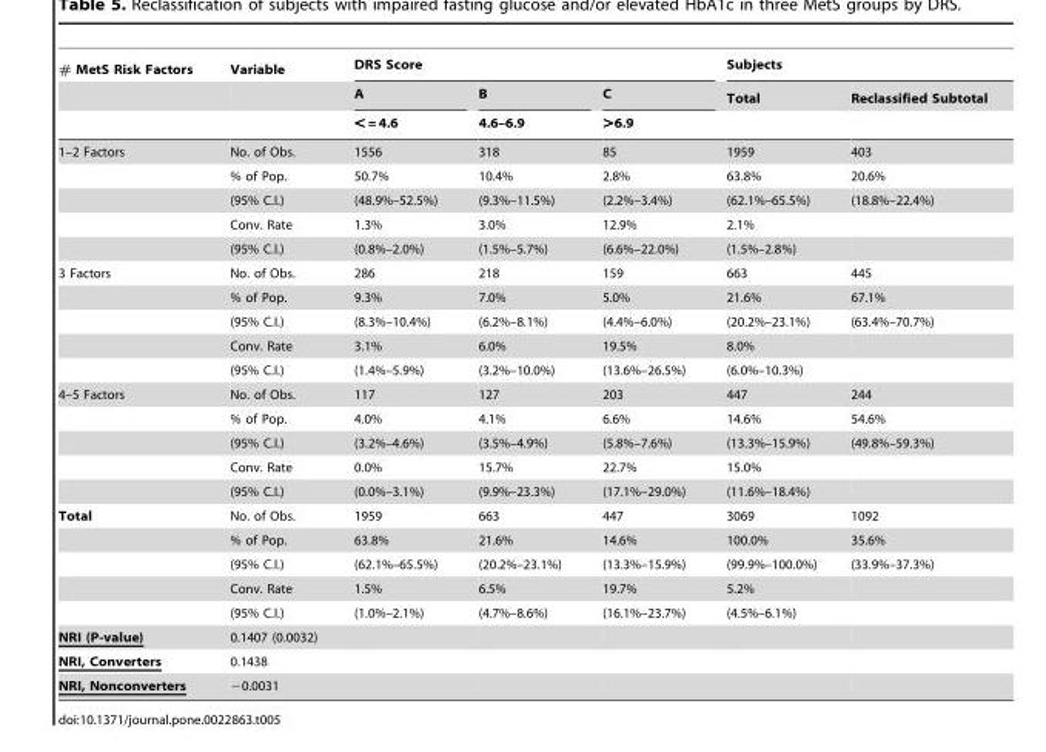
<table><thead><tr><td rowspan="3"># MetS Risk Factors</td><td rowspan="3">Variable</td><td colspan="3">DRS Score</td><td colspan="2">Subjects</td></tr><tr><td rowspan="2">A &lt; = 4.6</td><td rowspan="2">B 4.6–6.9</td><td rowspan="2">C &gt;6.9</td><td rowspan="2">Total</td><td rowspan="2">Reclassified Subtotal</td></tr><tr></tr></thead><tbody><tr><td rowspan="5">1–2 Factors</td><td>No. of Obs.</td><td>1556</td><td>318</td><td>85</td><td>1959</td><td>403</td></tr><tr><td>% of Pop.</td><td>50.7%</td><td>10.4%</td><td>2.8%</td><td>63.8%</td><td>20.6%</td></tr><tr><td>(95% C.I.)</td><td>(48.9%–52.5%)</td><td>(9.3%–11.5%)</td><td>(2.2%–3.4%)</td><td>(62.1%–65.5%)</td><td>(18.8%–22.4%)</td></tr><tr><td>Conv. Rate</td><td>1.3%</td><td>3.0%</td><td>12.9%</td><td>2.1%</td><td></td></tr><tr><td>(95% C.I.)</td><td>(0.8%–2.0%)</td><td>(1.5%–5.7%)</td><td>(6.6%–22.0%)</td><td>(1.5%–2.8%)</td><td></td></tr><tr><td rowspan="5">3 Factors</td><td>No. of Obs.</td><td>286</td><td>218</td><td>159</td><td>663</td><td>445</td></tr><tr><td>% of Pop.</td><td>9.3%</td><td>7.0%</td><td>5.0%</td><td>21.6%</td><td>67.1%</td></tr><tr><td>(95% C.I.)</td><td>(8.3%–10.4%)</td><td>(6.2%–8.1%)</td><td>(4.4%–6.0%)</td><td>(20.2%–23.1%)</td><td>(63.4%–70.7%)</td></tr><tr><td>Conv. Rate</td><td>3.1%</td><td>6.0%</td><td>19.5%</td><td>8.0%</td><td></td></tr><tr><td>(95% C.I.)</td><td>(1.4%–5.9%)</td><td>(3.2%–10.0%)</td><td>(13.6%–26.5%)</td><td>(6.0%–10.3%)</td><td></td></tr><tr><td rowspan="5">4–5 Factors</td><td>No. of Obs.</td><td>117</td><td>127</td><td>203</td><td>447</td><td>244</td></tr><tr><td>% of Pop.</td><td>4.0%</td><td>4.1%</td><td>6.6%</td><td>14.6%</td><td>54.6%</td></tr><tr><td>(95% C.I.)</td><td>(3.2%–4.6%)</td><td>(3.5%–4.9%)</td><td>(5.8%–7.6%)</td><td>(13.3%–15.9%)</td><td>(49.8%–59.3%)</td></tr><tr><td>Conv. Rate</td><td>0.0%</td><td>15.7%</td><td>22.7%</td><td>15.0%</td><td></td></tr><tr><td>(95% C.I.)</td><td>(0.0%–3.1%)</td><td>(9.9%–23.3%)</td><td>(17.1%–29.0%)</td><td>(11.6%–18.4%)</td><td></td></tr><tr><td rowspan="5">Total</td><td>No. of Obs.</td><td>1959</td><td>663</td><td>447</td><td>3069</td><td>1092</td></tr><tr><td>% of Pop.</td><td>63.8%</td><td>21.6%</td><td>14.6%</td><td>100.0%</td><td>35.6%</td></tr><tr><td>(95% C.I.)</td><td>(62.1%–65.5%)</td><td>(20.2%–23.1%)</td><td>(13.3%–15.9%)</td><td>(99.9%–100.0%)</td><td>(33.9%–37.3%)</td></tr><tr><td>Conv. Rate</td><td>1.5%</td><td>6.5%</td><td>19.7%</td><td>5.2%</td><td></td></tr><tr><td>(95% C.I.)</td><td>(1.0%–2.1%)</td><td>(4.7%–8.6%)</td><td>(16.1%–23.7%)</td><td>(4.5%–6.1%)</td><td></td></tr><tr><td>NRI (P-value)</td><td>0.1407 (0.0032)</td><td></td><td></td><td></td><td></td><td></td></tr><tr><td>NRI, Converters</td><td>0.1438</td><td></td><td></td><td></td><td></td><td></td></tr><tr><td>NRI, Nonconverters</td><td>−0.0031</td><td></td><td></td><td></td><td></td><td></td></tr></tbody></table>